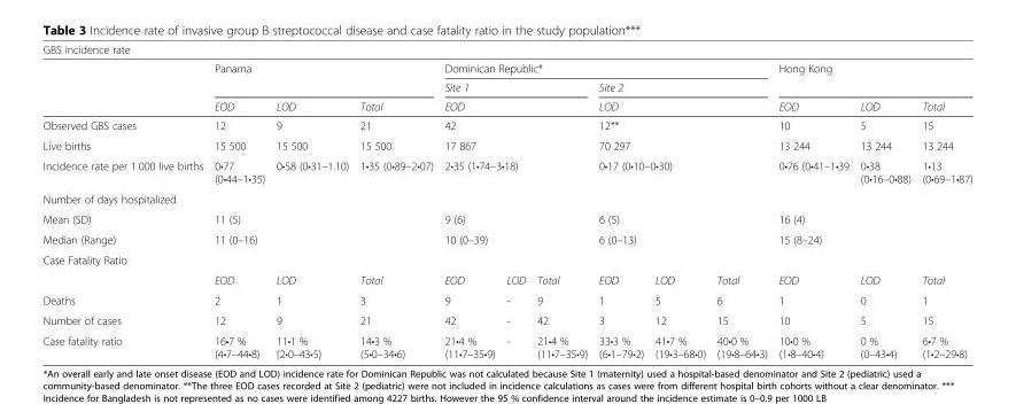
<table><thead><tr><td colspan="13">GBS incidence rate</td></tr><tr><td rowspan="3"></td><td rowspan="2" colspan="3">Panama</td><td colspan="6">Dominican Republic*</td><td rowspan="2" colspan="3">Hong Kong</td></tr><tr><td rowspan="2" colspan="3">Site 1 EOD</td><td rowspan="2" colspan="3">Site 2 LOD</td></tr><tr><td>EOD</td><td>LOD</td><td>Total</td><td>EOD</td><td>LOD</td><td>Total</td></tr></thead><tbody><tr><td>Observed GBS cases</td><td>12</td><td>9</td><td>21</td><td colspan="3">42</td><td colspan="3">12**</td><td>10</td><td>5</td><td>15</td></tr><tr><td>Live births</td><td>15 500</td><td>15 500</td><td>15 500</td><td colspan="3">17 867</td><td colspan="3">70 297</td><td>13 244</td><td>13 244</td><td>13 244</td></tr><tr><td>Incidence rate per 1 000 live births</td><td>0•77 (0•44–1•35)</td><td>0•58 (0•31–1.10)</td><td>1•35 (0•89–2•07)</td><td colspan="3">2•35 (1•74–3•18)</td><td colspan="3">0•17 (0•10–0•30)</td><td>0•76 (0•41–1•39</td><td>0•38 (0•16–0•88)</td><td>1•13 (0•69–1•87)</td></tr><tr><td colspan="13">Number of days hospitalized</td></tr><tr><td>Mean (SD)</td><td colspan="3">11 (5)</td><td colspan="3">9 (6)</td><td colspan="3">6 (5)</td><td colspan="3">16 (4)</td></tr><tr><td>Median (Range)</td><td colspan="3">11 (0–16)</td><td colspan="3">10 (0–39)</td><td colspan="3">6 (0–13)</td><td colspan="3">15 (8–24)</td></tr><tr><td colspan="13">Case Fatality Ratio</td></tr><tr><td></td><td>EOD</td><td>LOD</td><td>Total</td><td>EOD</td><td>LOD</td><td>Total</td><td>EOD</td><td>LOD</td><td>Total</td><td>EOD</td><td>LOD</td><td>Total</td></tr><tr><td>Deaths</td><td>2</td><td>1</td><td>3</td><td>9</td><td>-</td><td>9</td><td>1</td><td>5</td><td>6</td><td>1</td><td>0</td><td>1</td></tr><tr><td>Number of cases</td><td>12</td><td>9</td><td>21</td><td>42</td><td>-</td><td>42</td><td>3</td><td>12</td><td>15</td><td>10</td><td>5</td><td>15</td></tr><tr><td>Case fatality ratio</td><td>16•7 % (4•7–44•8)</td><td>11•1 % (2•0–43•5)</td><td>14•3 % (5•0–34•6)</td><td>21•4 % (11•7–35•9)</td><td>-</td><td>21•4 % (11•7–35•9)</td><td>33•3 % (6•1–79•2)</td><td>41•7 % (19•3–68•0)</td><td>40•0 % (19•8–64•3)</td><td>10•0 % (1•8–40•4)</td><td>0 % (0–43•4)</td><td>6•7 % (1•2–29•8)</td></tr></tbody></table>